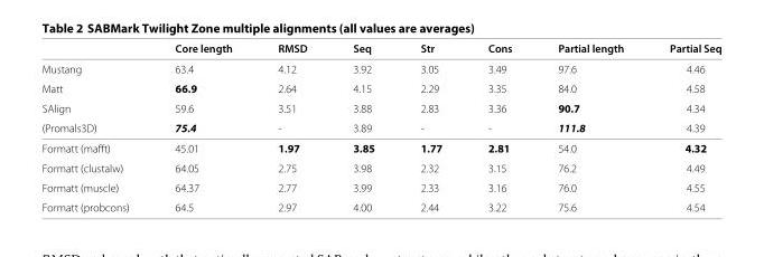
<table><thead><tr><td></td><td>Core length</td><td>RMSD</td><td>Seq</td><td>Str</td><td>Cons</td><td>Partial length</td><td>Partial Seq</td></tr></thead><tbody><tr><td>Mustang</td><td>63.4</td><td>4.12</td><td>3.92</td><td>3.05</td><td>3.49</td><td>97.6</td><td>4.46</td></tr><tr><td>Matt</td><td>66.9</td><td>2.64</td><td>4.15</td><td>2.29</td><td>3.35</td><td>84.0</td><td>4.58</td></tr><tr><td>SAlign</td><td>59.6</td><td>3.51</td><td>3.88</td><td>2.83</td><td>3.36</td><td>90.7</td><td>4.34</td></tr><tr><td>(Promals3D)</td><td>75.4</td><td>-</td><td>3.89</td><td>-</td><td>-</td><td>111.8</td><td>4.39</td></tr><tr><td>Formatt (mafft)</td><td>45.01</td><td>1.97</td><td>3.85</td><td>1.77</td><td>2.81</td><td>54.0</td><td>4.32</td></tr><tr><td>Formatt (clustalw)</td><td>64.05</td><td>2.75</td><td>3.98</td><td>2.32</td><td>3.15</td><td>76.2</td><td>4.49</td></tr><tr><td>Formatt (muscle)</td><td>64.37</td><td>2.77</td><td>3.99</td><td>2.33</td><td>3.16</td><td>76.0</td><td>4.55</td></tr><tr><td>Formatt (probcons)</td><td>64.5</td><td>2.97</td><td>4.00</td><td>2.44</td><td>3.22</td><td>75.6</td><td>4.54</td></tr></tbody></table>